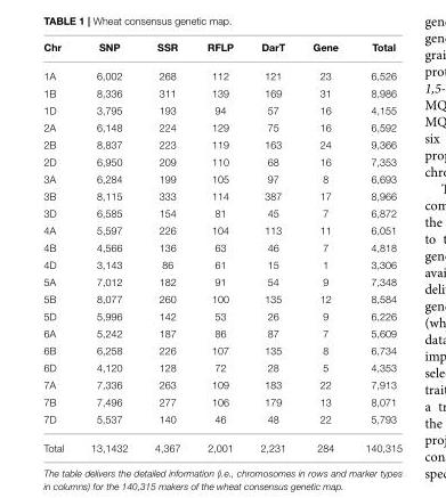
<table><thead><tr><td>Chr</td><td>SNP</td><td>SSR</td><td>RFLP</td><td>DarT</td><td>Gene</td><td>Total</td></tr></thead><tbody><tr><td>1A</td><td>6,002</td><td>268</td><td>112</td><td>121</td><td>23</td><td>6,526</td></tr><tr><td>1B</td><td>8,336</td><td>311</td><td>139</td><td>169</td><td>31</td><td>8,986</td></tr><tr><td>1D</td><td>3,795</td><td>193</td><td>94</td><td>57</td><td>16</td><td>4,155</td></tr><tr><td>2A</td><td>6,148</td><td>224</td><td>129</td><td>75</td><td>16</td><td>6,592</td></tr><tr><td>2B</td><td>8,837</td><td>223</td><td>119</td><td>163</td><td>24</td><td>9,366</td></tr><tr><td>2D</td><td>6,950</td><td>209</td><td>110</td><td>68</td><td>16</td><td>7,353</td></tr><tr><td>3A</td><td>6,284</td><td>199</td><td>105</td><td>97</td><td>8</td><td>6,693</td></tr><tr><td>3B</td><td>8,115</td><td>333</td><td>114</td><td>387</td><td>17</td><td>8,966</td></tr><tr><td>3D</td><td>6,585</td><td>154</td><td>81</td><td>45</td><td>7</td><td>6,872</td></tr><tr><td>4A</td><td>5,597</td><td>226</td><td>104</td><td>113</td><td>11</td><td>6,051</td></tr><tr><td>4B</td><td>4,566</td><td>136</td><td>63</td><td>46</td><td>7</td><td>4,818</td></tr><tr><td>4D</td><td>3,143</td><td>86</td><td>61</td><td>15</td><td>1</td><td>3,306</td></tr><tr><td>5A</td><td>7,012</td><td>182</td><td>91</td><td>54</td><td>9</td><td>7,348</td></tr><tr><td>5B</td><td>8,077</td><td>260</td><td>100</td><td>135</td><td>12</td><td>8,584</td></tr><tr><td>5D</td><td>5,996</td><td>142</td><td>53</td><td>26</td><td>9</td><td>6,226</td></tr><tr><td>6A</td><td>5,242</td><td>187</td><td>86</td><td>87</td><td>7</td><td>5,609</td></tr><tr><td>6B</td><td>6,258</td><td>226</td><td>107</td><td>135</td><td>8</td><td>6,734</td></tr><tr><td>6D</td><td>4,120</td><td>128</td><td>72</td><td>28</td><td>5</td><td>4,353</td></tr><tr><td>7A</td><td>7,336</td><td>263</td><td>109</td><td>183</td><td>22</td><td>7,913</td></tr><tr><td>7B</td><td>7,496</td><td>277</td><td>106</td><td>179</td><td>13</td><td>8,071</td></tr><tr><td>7D</td><td>5,537</td><td>140</td><td>46</td><td>48</td><td>22</td><td>5,793</td></tr><tr><td>Total</td><td>13,1432</td><td>4,367</td><td>2,001</td><td>2,231</td><td>284</td><td>140,315</td></tr></tbody></table>